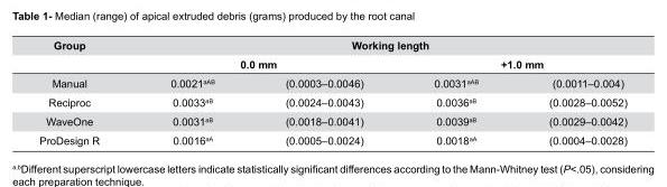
<table><thead><tr><td rowspan="3">Group Manual</td><td colspan="4">Working length</td></tr><tr><td colspan="2">0.0 mm</td><td colspan="2">+1.0 mm</td></tr><tr><td>0.0021<sup>aAB</sup></td><td>(0.0003–0.0046)</td><td>0.0031<sup>aAB</sup></td><td>(0.0011–0.004)</td></tr></thead><tbody><tr><td>Reciproc</td><td>0.0033<sup>aB</sup></td><td>(0.0024–0.0043)</td><td>0.0036<sup>aB</sup></td><td>(0.0028–0.0052)</td></tr><tr><td>WaveOne</td><td>0.0031<sup>aB</sup></td><td>(0.0018–0.0041)</td><td>0.0039<sup>aB</sup></td><td>(0.0029–0.0042)</td></tr><tr><td>ProDesign R</td><td>0.0016<sup>aA</sup></td><td>(0.0005–0.0024)</td><td>0.0018<sup>aA</sup></td><td>(0.0004–0.0028)</td></tr></tbody></table>